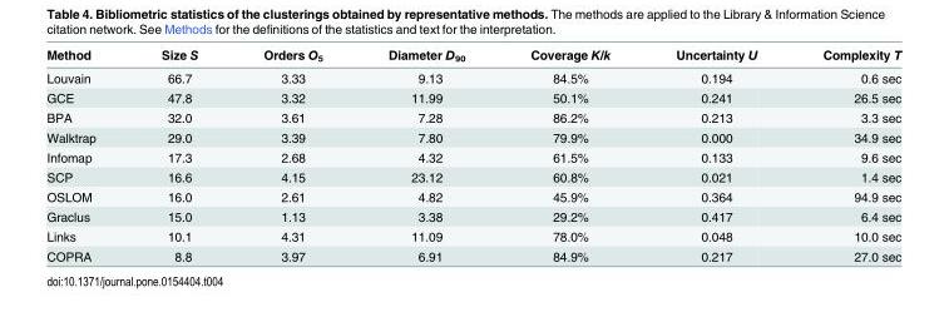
<table><thead><tr><td>Method</td><td>Size S</td><td>Orders O<sub>5</sub></td><td>Diameter D<sub>90</sub></td><td>Coverage K/k</td><td>Uncertainty U</td><td>Complexity T</td></tr></thead><tbody><tr><td>Louvain</td><td>66.7</td><td>3.33</td><td>9.13</td><td>84.5%</td><td>0.194</td><td>0.6 sec</td></tr><tr><td>GCE</td><td>47.8</td><td>3.32</td><td>11.99</td><td>50.1%</td><td>0.241</td><td>26.5 sec</td></tr><tr><td>BPA</td><td>32.0</td><td>3.61</td><td>7.28</td><td>86.2%</td><td>0.213</td><td>3.3 sec</td></tr><tr><td>Walktrap</td><td>29.0</td><td>3.39</td><td>7.80</td><td>79.9%</td><td>0.000</td><td>34.9 sec</td></tr><tr><td>Infomap</td><td>17.3</td><td>2.68</td><td>4.32</td><td>61.5%</td><td>0.133</td><td>9.6 sec</td></tr><tr><td>SCP</td><td>16.6</td><td>4.15</td><td>23.12</td><td>60.8%</td><td>0.021</td><td>1.4 sec</td></tr><tr><td>OSLOM</td><td>16.0</td><td>2.61</td><td>4.82</td><td>45.9%</td><td>0.364</td><td>94.9 sec</td></tr><tr><td>Graclus</td><td>15.0</td><td>1.13</td><td>3.38</td><td>29.2%</td><td>0.417</td><td>6.4 sec</td></tr><tr><td>Links</td><td>10.1</td><td>4.31</td><td>11.09</td><td>78.0%</td><td>0.048</td><td>10.0 sec</td></tr><tr><td>COPRA</td><td>8.8</td><td>3.97</td><td>6.91</td><td>84.9%</td><td>0.217</td><td>27.0 sec</td></tr></tbody></table>